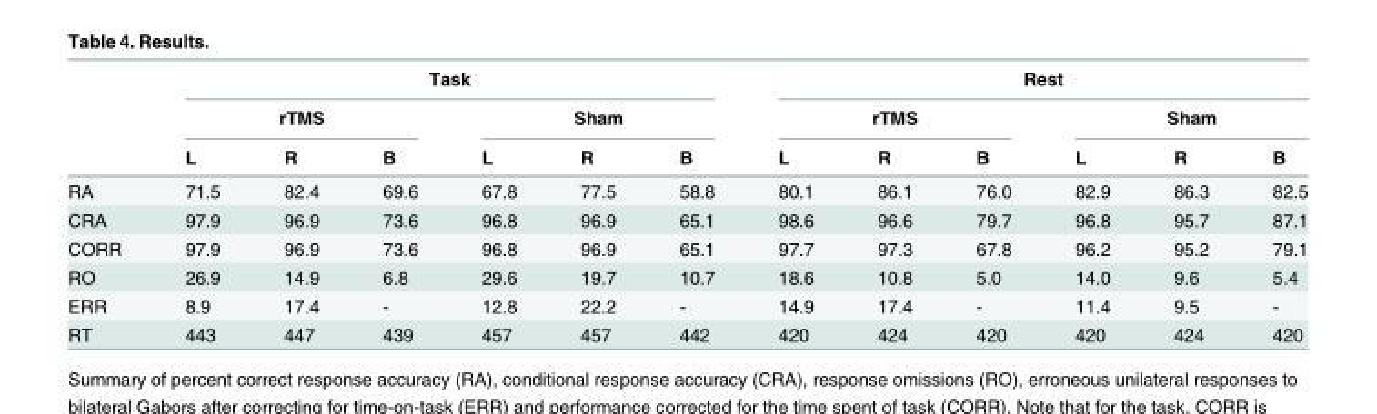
<table><thead><tr><td rowspan="3"></td><td colspan="6">Task</td><td colspan="6">Rest</td></tr><tr><td colspan="3">rTMS</td><td colspan="3">Sham</td><td colspan="3">rTMS</td><td colspan="3">Sham</td></tr><tr><td>L</td><td>R</td><td>B</td><td>L</td><td>R</td><td>B</td><td>L</td><td>R</td><td>B</td><td>L</td><td>R</td><td>B</td></tr></thead><tbody><tr><td>RA</td><td>71.5</td><td>82.4</td><td>69.6</td><td>67.8</td><td>77.5</td><td>58.8</td><td>80.1</td><td>86.1</td><td>76.0</td><td>82.9</td><td>86.3</td><td>82.5</td></tr><tr><td>CRA</td><td>97.9</td><td>96.9</td><td>73.6</td><td>96.8</td><td>96.9</td><td>65.1</td><td>98.6</td><td>96.6</td><td>79.7</td><td>96.8</td><td>95.7</td><td>87.1</td></tr><tr><td>CORR</td><td>97.9</td><td>96.9</td><td>73.6</td><td>96.8</td><td>96.9</td><td>65.1</td><td>97.7</td><td>97.3</td><td>67.8</td><td>96.2</td><td>95.2</td><td>79.1</td></tr><tr><td>RO</td><td>26.9</td><td>14.9</td><td>6.8</td><td>29.6</td><td>19.7</td><td>10.7</td><td>18.6</td><td>10.8</td><td>5.0</td><td>14.0</td><td>9.6</td><td>5.4</td></tr><tr><td>ERR</td><td>8.9</td><td>17.4</td><td>-</td><td>12.8</td><td>22.2</td><td>-</td><td>14.9</td><td>17.4</td><td>-</td><td>11.4</td><td>9.5</td><td>-</td></tr><tr><td>RT</td><td>443</td><td>447</td><td>439</td><td>457</td><td>457</td><td>442</td><td>420</td><td>424</td><td>420</td><td>420</td><td>424</td><td>420</td></tr></tbody></table>